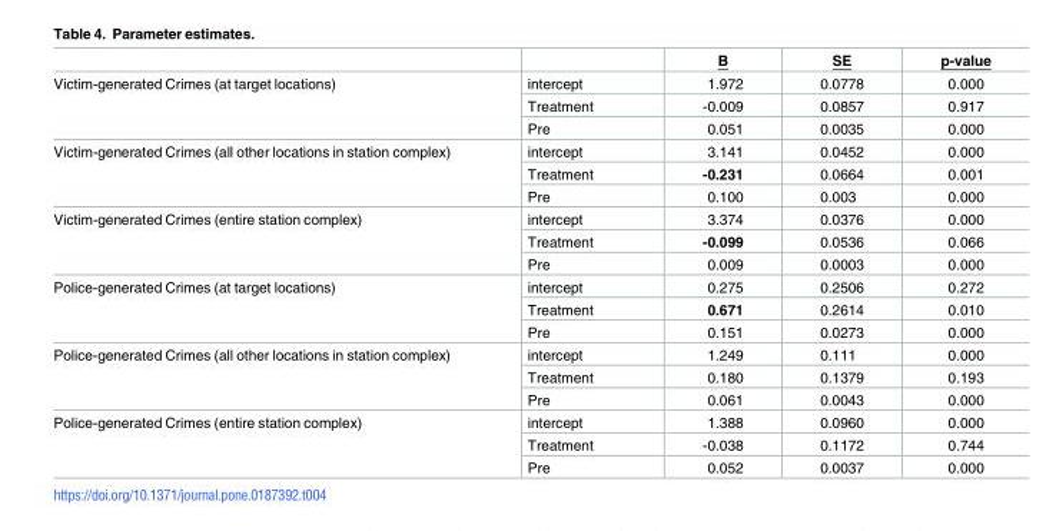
<table><thead><tr><td></td><td></td><td>B</td><td>SE</td><td>p-value</td></tr></thead><tbody><tr><td rowspan="3">Victim-generated Crimes (at target locations)</td><td>intercept</td><td>1.972</td><td>0.0778</td><td>0.000</td></tr><tr><td>Treatment</td><td>-0.009</td><td>0.0857</td><td>0.917</td></tr><tr><td>Pre</td><td>0.051</td><td>0.0035</td><td>0.000</td></tr><tr><td rowspan="3">Victim-generated Crimes (all other locations in station complex)</td><td>intercept</td><td>3.141</td><td>0.0452</td><td>0.000</td></tr><tr><td>Treatment</td><td>-0.231</td><td>0.0664</td><td>0.001</td></tr><tr><td>Pre</td><td>0.100</td><td>0.003</td><td>0.000</td></tr><tr><td rowspan="3">Victim-generated Crimes (entire station complex)</td><td>intercept</td><td>3.374</td><td>0.0376</td><td>0.000</td></tr><tr><td>Treatment</td><td>-0.099</td><td>0.0536</td><td>0.066</td></tr><tr><td>Pre</td><td>0.009</td><td>0.0003</td><td>0.000</td></tr><tr><td rowspan="3">Police-generated Crimes (at target locations)</td><td>intercept</td><td>0.275</td><td>0.2506</td><td>0.272</td></tr><tr><td>Treatment</td><td>0.671</td><td>0.2614</td><td>0.010</td></tr><tr><td>Pre</td><td>0.151</td><td>0.0273</td><td>0.000</td></tr><tr><td rowspan="3">Police-generated Crimes (all other locations in station complex)</td><td>intercept</td><td>1.249</td><td>0.111</td><td>0.000</td></tr><tr><td>Treatment</td><td>0.180</td><td>0.1379</td><td>0.193</td></tr><tr><td>Pre</td><td>0.061</td><td>0.0043</td><td>0.000</td></tr><tr><td rowspan="3">Police-generated Crimes (entire station complex)</td><td>intercept</td><td>1.388</td><td>0.0960</td><td>0.000</td></tr><tr><td>Treatment</td><td>-0.038</td><td>0.1172</td><td>0.744</td></tr><tr><td>Pre</td><td>0.052</td><td>0.0037</td><td>0.000</td></tr></tbody></table>